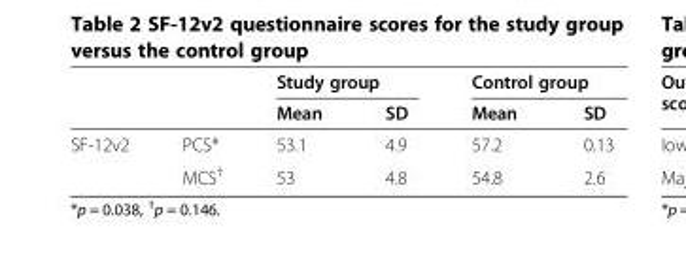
<table><thead><tr><td rowspan="2"></td><td rowspan="2"></td><td colspan="2">Study group</td><td colspan="2">Control group</td></tr><tr><td>Mean</td><td>SD</td><td>Mean</td><td>SD</td></tr></thead><tbody><tr><td rowspan="2">SF-12v2</td><td>PCS*</td><td>53.1</td><td>4.9</td><td>57.2</td><td>0.13</td></tr><tr><td>MCS<sup>†</sup></td><td>53</td><td>4.8</td><td>54.8</td><td>2.6</td></tr></tbody></table>